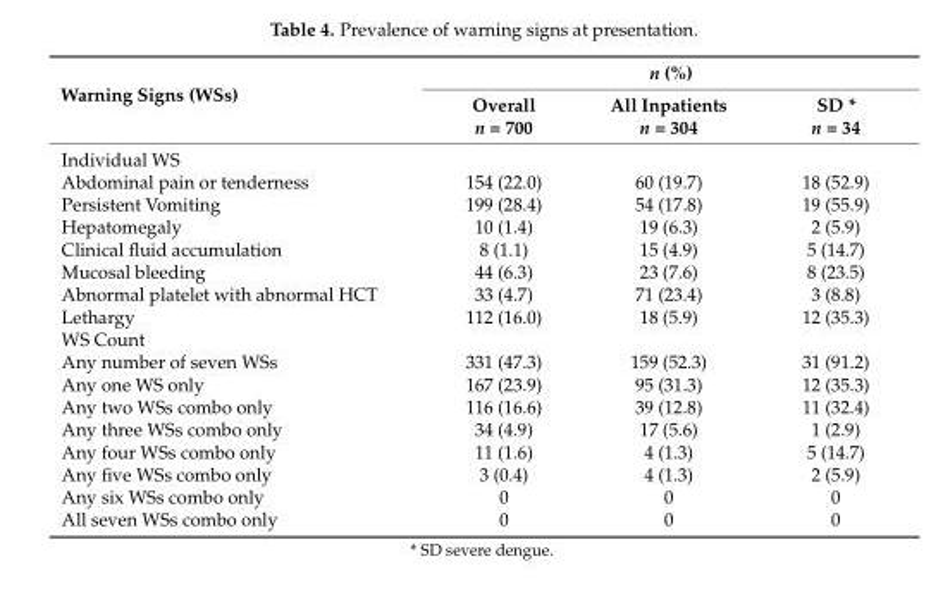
<table><thead><tr><td rowspan="2">Warning Signs (WSs)</td><td colspan="3">n (%)</td></tr><tr><td>Overall n = 700</td><td>All Inpatients n = 304</td><td>SD * n = 34</td></tr></thead><tbody><tr><td colspan="4">Individual WS</td></tr><tr><td>Abdominal pain or tenderness</td><td>154 (22.0)</td><td>60 (19.7)</td><td>18 (52.9)</td></tr><tr><td>Persistent Vomiting</td><td>199 (28.4)</td><td>54 (17.8)</td><td>19 (55.9)</td></tr><tr><td>Hepatomegaly</td><td>10 (1.4)</td><td>19 (6.3)</td><td>2 (5.9)</td></tr><tr><td>Clinical fluid accumulation</td><td>8 (1.1)</td><td>15 (4.9)</td><td>5 (14.7)</td></tr><tr><td>Mucosal bleeding</td><td>44 (6.3)</td><td>23 (7.6)</td><td>8 (23.5)</td></tr><tr><td>Abnormal platelet with abnormal HCT</td><td>33 (4.7)</td><td>71 (23.4)</td><td>3 (8.8)</td></tr><tr><td>Lethargy</td><td>112 (16.0)</td><td>18 (5.9)</td><td>12 (35.3)</td></tr><tr><td colspan="4">WS Count</td></tr><tr><td>Any number of seven WSs</td><td>331 (47.3)</td><td>159 (52.3)</td><td>31 (91.2)</td></tr><tr><td>Any one WS only</td><td>167 (23.9)</td><td>95 (31.3)</td><td>12 (35.3)</td></tr><tr><td>Any two WSs combo only</td><td>116 (16.6)</td><td>39 (12.8)</td><td>11 (32.4)</td></tr><tr><td>Any three WSs combo only</td><td>34 (4.9)</td><td>17 (5.6)</td><td>1 (2.9)</td></tr><tr><td>Any four WSs combo only</td><td>11 (1.6)</td><td>4 (1.3)</td><td>5 (14.7)</td></tr><tr><td>Any five WSs combo only</td><td>3 (0.4)</td><td>4 (1.3)</td><td>2 (5.9)</td></tr><tr><td>Any six WSs combo only</td><td>0</td><td>0</td><td>0</td></tr><tr><td>All seven WSs combo only</td><td>0</td><td>0</td><td>0</td></tr></tbody></table>